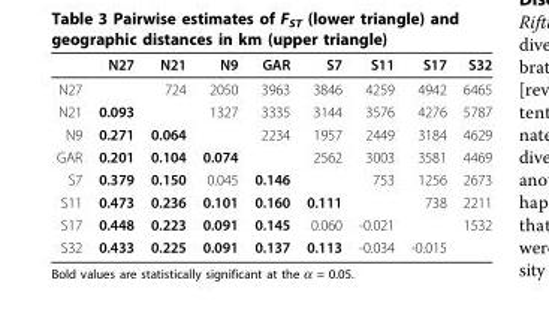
<table><thead><tr><td></td><td>N27</td><td>N21</td><td>N9</td><td>GAR</td><td>S7</td><td>S11</td><td>S17</td><td>S32</td></tr></thead><tbody><tr><td>N27</td><td></td><td>724</td><td>2050</td><td>3963</td><td>3846</td><td>4259</td><td>4942</td><td>6465</td></tr><tr><td>N21</td><td>0.093</td><td></td><td>1327</td><td>3335</td><td>3144</td><td>3576</td><td>4276</td><td>5787</td></tr><tr><td>N9</td><td>0.271</td><td>0.064</td><td></td><td>2234</td><td>1957</td><td>2449</td><td>3184</td><td>4629</td></tr><tr><td>GAR</td><td>0.201</td><td>0.104</td><td>0.074</td><td></td><td>2562</td><td>3003</td><td>3581</td><td>4469</td></tr><tr><td>S7</td><td>0.379</td><td>0.150</td><td>0.045</td><td>0.146</td><td></td><td>753</td><td>1256</td><td>2673</td></tr><tr><td>S11</td><td>0.473</td><td>0.236</td><td>0.101</td><td>0.160</td><td>0.111</td><td></td><td>738</td><td>2211</td></tr><tr><td>S17</td><td>0.448</td><td>0.223</td><td>0.091</td><td>0.145</td><td>0.060</td><td>-0.021</td><td></td><td>1532</td></tr><tr><td>S32</td><td>0.433</td><td>0.225</td><td>0.091</td><td>0.137</td><td>0.113</td><td>-0.034</td><td>-0.015</td><td></td></tr></tbody></table>